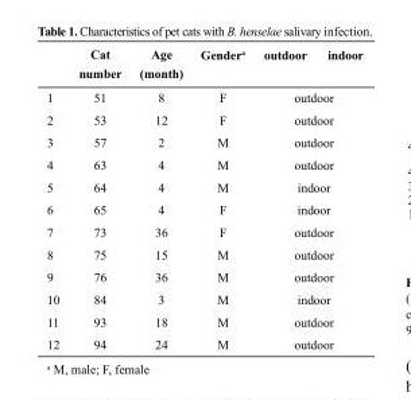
<table><thead><tr><td></td><td>Cat number</td><td>Age (month)</td><td>Gender<sup>a</sup></td><td>outdoor</td><td>indoor</td></tr></thead><tbody><tr><td>1</td><td>51</td><td>8</td><td>F</td><td colspan="2">outdoor</td></tr><tr><td>2</td><td>53</td><td>12</td><td>F</td><td colspan="2">outdoor</td></tr><tr><td>3</td><td>57</td><td>2</td><td>M</td><td colspan="2">outdoor</td></tr><tr><td>4</td><td>63</td><td>4</td><td>M</td><td colspan="2">outdoor</td></tr><tr><td>5</td><td>64</td><td>4</td><td>M</td><td colspan="2">indoor</td></tr><tr><td>6</td><td>65</td><td>4</td><td>F</td><td colspan="2">indoor</td></tr><tr><td>7</td><td>73</td><td>36</td><td>F</td><td colspan="2">outdoor</td></tr><tr><td>8</td><td>75</td><td>15</td><td>M</td><td colspan="2">outdoor</td></tr><tr><td>9</td><td>76</td><td>36</td><td>M</td><td colspan="2">outdoor</td></tr><tr><td>10</td><td>84</td><td>3</td><td>M</td><td colspan="2">indoor</td></tr><tr><td>11</td><td>93</td><td>18</td><td>M</td><td colspan="2">outdoor</td></tr><tr><td>12</td><td>94</td><td>24</td><td>M</td><td colspan="2">outdoor</td></tr></tbody></table>